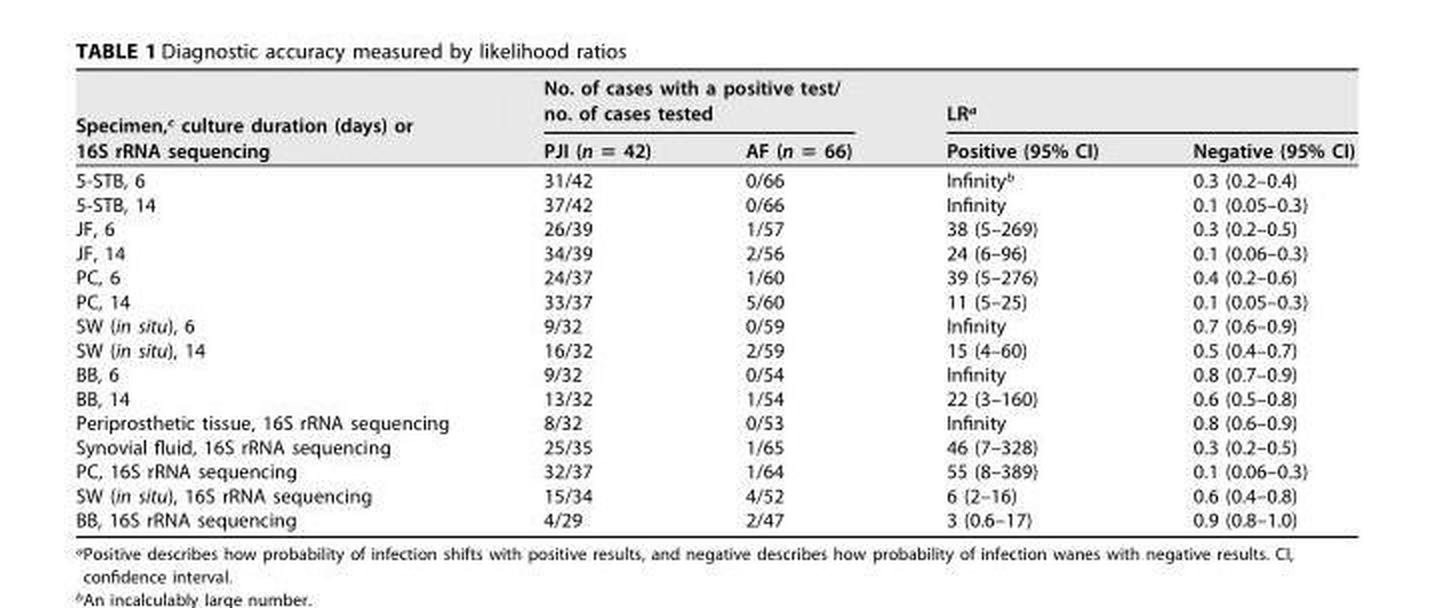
<table><thead><tr><td rowspan="2">Specimen,<sup>c</sup> culture duration (days) or 16S rRNA sequencing</td><td colspan="2">No. of cases with a positive test/ no. of cases tested</td><td colspan="2">LR<sup>a</sup></td></tr><tr><td>PJI (n = 42)</td><td>AF (n = 66)</td><td>Positive (95% CI)</td><td>Negative (95% CI)</td></tr></thead><tbody><tr><td>5-STB, 6</td><td>31/42</td><td>0/66</td><td>Infinity<sup>b</sup></td><td>0.3 (0.2–0.4)</td></tr><tr><td>5-STB, 14</td><td>37/42</td><td>0/66</td><td>Infinity</td><td>0.1 (0.05–0.3)</td></tr><tr><td>JF, 6</td><td>26/39</td><td>1/57</td><td>38 (5–269)</td><td>0.3 (0.2–0.5)</td></tr><tr><td>JF, 14</td><td>34/39</td><td>2/56</td><td>24 (6–96)</td><td>0.1 (0.06–0.3)</td></tr><tr><td>PC, 6</td><td>24/37</td><td>1/60</td><td>39 (5–276)</td><td>0.4 (0.2–0.6)</td></tr><tr><td>PC, 14</td><td>33/37</td><td>5/60</td><td>11 (5–25)</td><td>0.1 (0.05–0.3)</td></tr><tr><td>SW (in situ), 6</td><td>9/32</td><td>0/59</td><td>Infinity</td><td>0.7 (0.6–0.9)</td></tr><tr><td>SW (in situ), 14</td><td>16/32</td><td>2/59</td><td>15 (4–60)</td><td>0.5 (0.4–0.7)</td></tr><tr><td>BB, 6</td><td>9/32</td><td>0/54</td><td>Infinity</td><td>0.8 (0.7–0.9)</td></tr><tr><td>BB, 14</td><td>13/32</td><td>1/54</td><td>22 (3–160)</td><td>0.6 (0.5–0.8)</td></tr><tr><td>Periprosthetic tissue, 16S rRNA sequencing</td><td>8/32</td><td>0/53</td><td>Infinity</td><td>0.8 (0.6–0.9)</td></tr><tr><td>Synovial fluid, 16S rRNA sequencing</td><td>25/35</td><td>1/65</td><td>46 (7–328)</td><td>0.3 (0.2–0.5)</td></tr><tr><td>PC, 16S rRNA sequencing</td><td>32/37</td><td>1/64</td><td>55 (8–389)</td><td>0.1 (0.06–0.3)</td></tr><tr><td>SW (in situ), 16S rRNA sequencing</td><td>15/34</td><td>4/52</td><td>6 (2–16)</td><td>0.6 (0.4–0.8)</td></tr><tr><td>BB, 16S rRNA sequencing</td><td>4/29</td><td>2/47</td><td>3 (0.6–17)</td><td>0.9 (0.8–1.0)</td></tr></tbody></table>